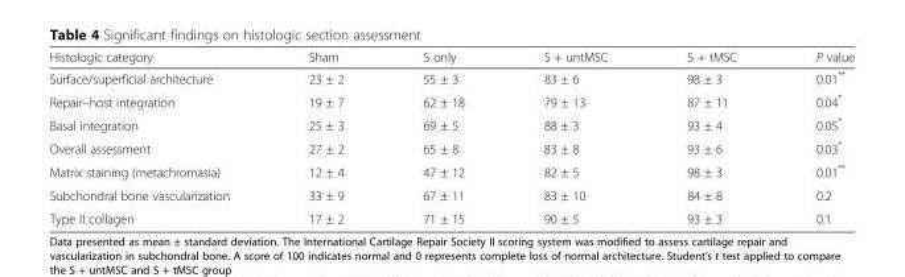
<table><thead><tr><td>Histologic category</td><td>Sham</td><td>S only</td><td>S + untMSC</td><td>S + tMSC</td><td>P value</td></tr></thead><tbody><tr><td>Surface/superficial architecture</td><td>23 ± 2</td><td>55 ± 3</td><td>83 ± 6</td><td>98 ± 3</td><td>0.01**</td></tr><tr><td>Repair–host integration</td><td>19 ± 7</td><td>62 ± 18</td><td>79 ± 13</td><td>87 ± 11</td><td>0.04*</td></tr><tr><td>Basal integration</td><td>25 ± 3</td><td>69 ± 5</td><td>88 ± 3</td><td>93 ± 4</td><td>0.05*</td></tr><tr><td>Overall assessment</td><td>27 ± 2</td><td>65 ± 8</td><td>83 ± 8</td><td>93 ± 6</td><td>0.03*</td></tr><tr><td>Matrix staining (metachromasia)</td><td>12 ± 4</td><td>47 ± 12</td><td>82 ± 5</td><td>98 ± 3</td><td>0.01**</td></tr><tr><td>Subchondral bone vascularization</td><td>33 ± 9</td><td>67 ± 11</td><td>83 ± 10</td><td>84 ± 8</td><td>0.2</td></tr><tr><td>Type II collagen</td><td>17 ± 2</td><td>71 ± 15</td><td>90 ± 5</td><td>93 ± 3</td><td>0.1</td></tr></tbody></table>